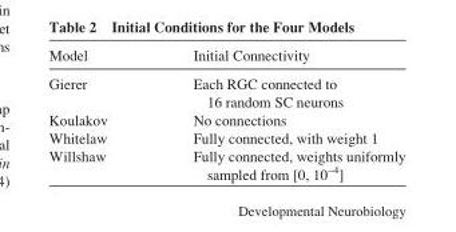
<table><thead><tr><td>Model</td><td>Initial Connectivity</td></tr></thead><tbody><tr><td>Gierer</td><td>Each RGC connected to 16 random SC neurons</td></tr><tr><td>Koulakov</td><td>No connections</td></tr><tr><td>Whitelaw</td><td>Fully connected, with weight 1</td></tr><tr><td>Willshaw</td><td>Fully connected, weights uniformly sampled from [0, 10<sup>–4</sup>]</td></tr></tbody></table>